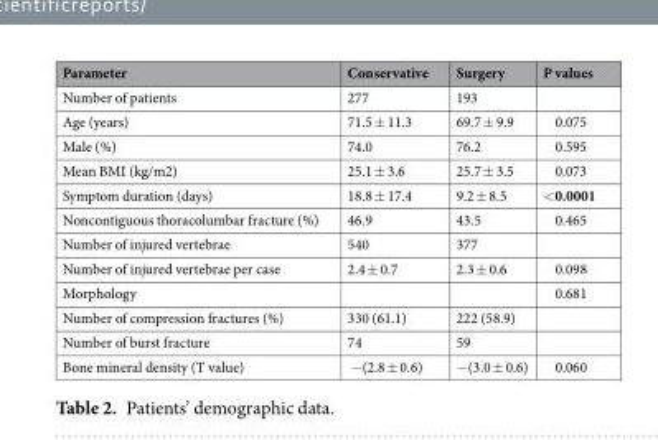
<table><thead><tr><td>Parameter</td><td>Conservative</td><td>Surgery</td><td>P values</td></tr></thead><tbody><tr><td>Number of patients</td><td>277</td><td>193</td><td></td></tr><tr><td>Age (years)</td><td>71.5 ± 11.3</td><td>69.7 ± 9.9</td><td>0.075</td></tr><tr><td>Male (%)</td><td>74.0</td><td>76.2</td><td>0.595</td></tr><tr><td>Mean BMI (kg/m2)</td><td>25.1 ± 3.6</td><td>25.7 ± 3.5</td><td>0.073</td></tr><tr><td>Symptom duration (days)</td><td>18.8 ± 17.4</td><td>9.2 ± 8.5</td><td>&lt;0.0001</td></tr><tr><td>Noncontiguous thoracolumbar fracture (%)</td><td>46.9</td><td>43.5</td><td>0.465</td></tr><tr><td>Number of injured vertebrae</td><td>540</td><td>377</td><td></td></tr><tr><td>Number of injured vertebrae per case</td><td>2.4 ± 0.7</td><td>2.3 ± 0.6</td><td>0.098</td></tr><tr><td>Morphology</td><td></td><td></td><td>0.681</td></tr><tr><td>Number of compression fractures (%)</td><td>330 (61.1)</td><td>222 (58.9)</td><td></td></tr><tr><td>Number of burst fracture</td><td>74</td><td>59</td><td></td></tr><tr><td>Bone mineral density (T value)</td><td>−(2.8 ± 0.6)</td><td>−(3.0 ± 0.6)</td><td>0.060</td></tr></tbody></table>